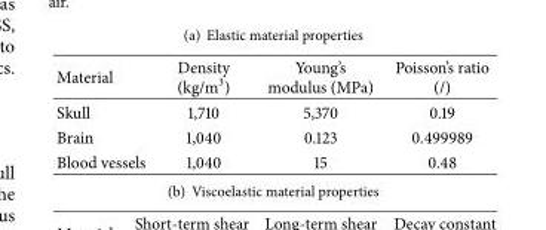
<table><thead><tr><td>Material</td><td>Density (kg/m<sup>3</sup>)</td><td>Young’s modulus (MPa)</td><td>Poisson’s ratio (/)</td></tr></thead><tbody><tr><td>Skull</td><td>1,710</td><td>5,370</td><td>0.19</td></tr><tr><td>Brain</td><td>1,040</td><td>0.123</td><td>0.499989</td></tr><tr><td>Blood vessels</td><td>1,040</td><td>15</td><td>0.48</td></tr></tbody></table>